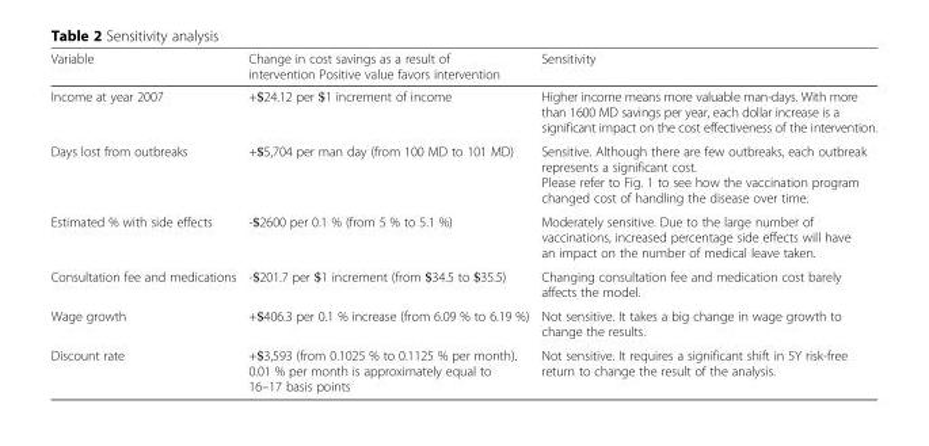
<table><thead><tr><td>Variable</td><td>Change in cost savings as a result of intervention Positive value favors intervention</td><td>Sensitivity</td></tr></thead><tbody><tr><td>Income at year 2007</td><td>+$24.12 per $1 increment of income</td><td>Higher income means more valuable man-days. With more than 1600 MD savings per year, each dollar increase is a significant impact on the cost effectiveness of the intervention.</td></tr><tr><td>Days lost from outbreaks</td><td>+$5,704 per man day (from 100 MD to 101 MD)</td><td>Sensitive. Although there are few outbreaks, each outbreak represents a significant cost. Please refer to Fig. 1 to see how the vaccination program changed cost of handling the disease over time.</td></tr><tr><td>Estimated % with side effects</td><td>-$2600 per 0.1 % (from 5 % to 5.1 %)</td><td>Moderately sensitive. Due to the large number of vaccinations, increased percentage side effects will have an impact on the number of medical leave taken.</td></tr><tr><td>Consultation fee and medications</td><td>-$201.7 per $1 increment (from $34.5 to $35.5)</td><td>Changing consultation fee and medication cost barely affects the model.</td></tr><tr><td>Wage growth</td><td>+$406.3 per 0.1 % increase (from 6.09 % to 6.19 %)</td><td>Not sensitive. It takes a big change in wage growth to change the results.</td></tr><tr><td>Discount rate</td><td>+$3,593 (from 0.1025 % to 0.1125 % per month). 0.01 % per month is approximately equal to 16–17 basis points</td><td>Not sensitive. It requires a significant shift in 5Y risk-free return to change the result of the analysis.</td></tr></tbody></table>